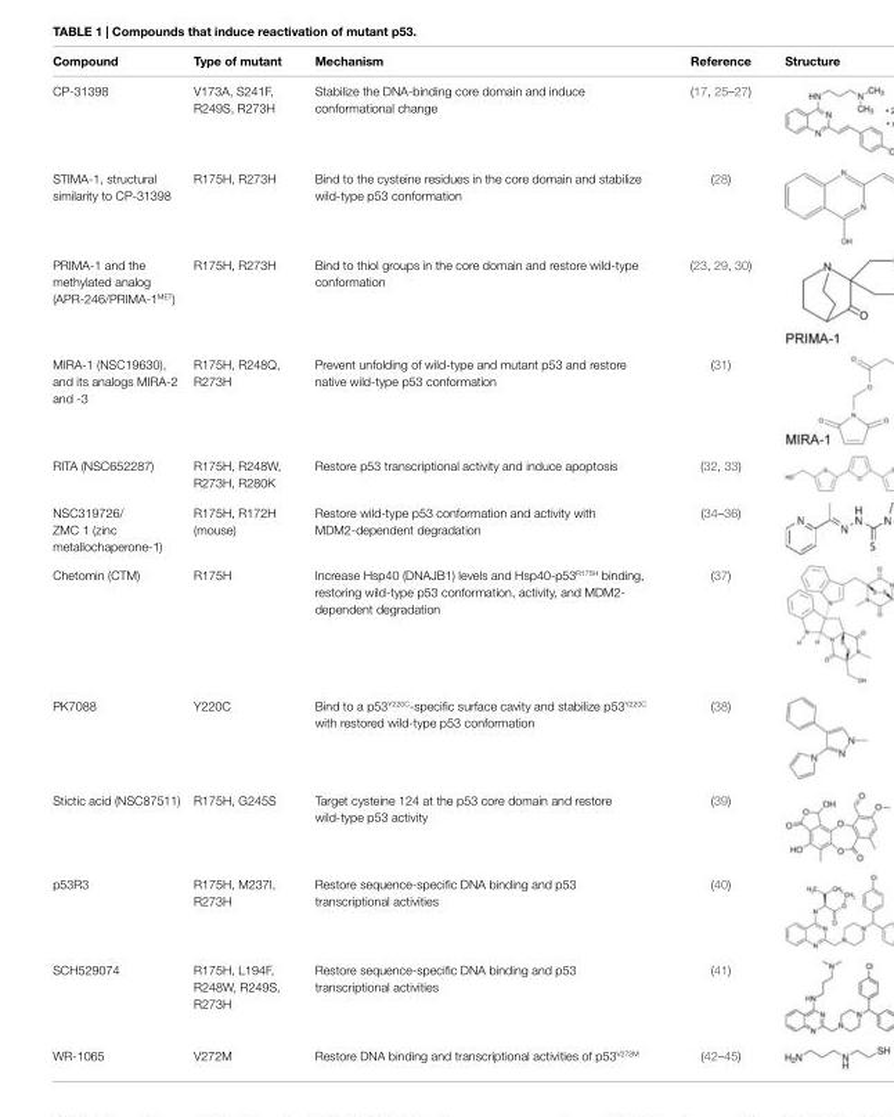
<table><thead><tr><td>Compound</td><td>Type of mutant</td><td>Mechanism</td><td>Reference</td><td>Structure</td></tr></thead><tbody><tr><td>CP-31398</td><td>V173A, S241F, R249S, R273H</td><td>Stabilize the DNA-binding core domain and induce conformational change</td><td>(17, 25–27)</td><td></td></tr><tr><td>STIMA-1, structural similarity to CP-31398</td><td>R175H, R273H</td><td>Bind to the cysteine residues in the core domain and stabilize wild-type p53 conformation</td><td>(28)</td><td></td></tr><tr><td>PRIMA-1 and the methylated analog (APR-246/PRIMA-1<sup>MET</sup>)</td><td>R175H, R273H</td><td>Bind to thiol groups in the core domain and restore wild-type conformation</td><td>(23, 29, 30)</td><td></td></tr><tr><td>MIRA-1 (NSC19630), and its analogs MIRA-2 and -3</td><td>R175H, R248Q, R273H</td><td>Prevent unfolding of wild-type and mutant p53 and restore native wild-type p53 conformation</td><td>(31)</td><td></td></tr><tr><td>RITA (NSC652287)</td><td>R175H, R248W, R273H, R280K</td><td>Restore p53 transcriptional activity and induce apoptosis</td><td>(32, 33)</td><td></td></tr><tr><td>NSC319726/ ZMC 1 (zinc metallochaperone-1)</td><td>R175H, R172H (mouse)</td><td>Restore wild-type p53 conformation and activity with MDM2-dependent degradation</td><td>(34–36)</td><td></td></tr><tr><td>Chetomin (CTM)</td><td>R175H</td><td>Increase Hsp40 (DNAJB1) levels and Hsp40-p53<sup>R175H</sup> binding, restoring wild-type p53 conformation, activity, and MDM2- dependent degradation</td><td>(37)</td><td></td></tr><tr><td>PK7088</td><td>Y220C</td><td>Bind to a p53<sup>Y220C</sup>-specific surface cavity and stabilize p53<sup>Y220C</sup> with restored wild-type p53 conformation</td><td>(38)</td><td></td></tr><tr><td>Stictic acid (NSC87511)</td><td>R175H, G245S</td><td>Target cysteine 124 at the p53 core domain and restore wild-type p53 activity</td><td>(39)</td><td></td></tr><tr><td>p53R3</td><td>R175H, M237I, R273H</td><td>Restore sequence-specific DNA binding and p53 transcriptional activities</td><td>(40)</td><td></td></tr><tr><td>SCH529074</td><td>R175H, L194F, R248W, R249S, R273H</td><td>Restore sequence-specific DNA binding and p53 transcriptional activities</td><td>(41)</td><td></td></tr><tr><td>WR-1065</td><td>V272M</td><td>Restore DNA binding and transcriptional activities of p53<sup>V272M</sup></td><td>(42–45)</td><td></td></tr></tbody></table>